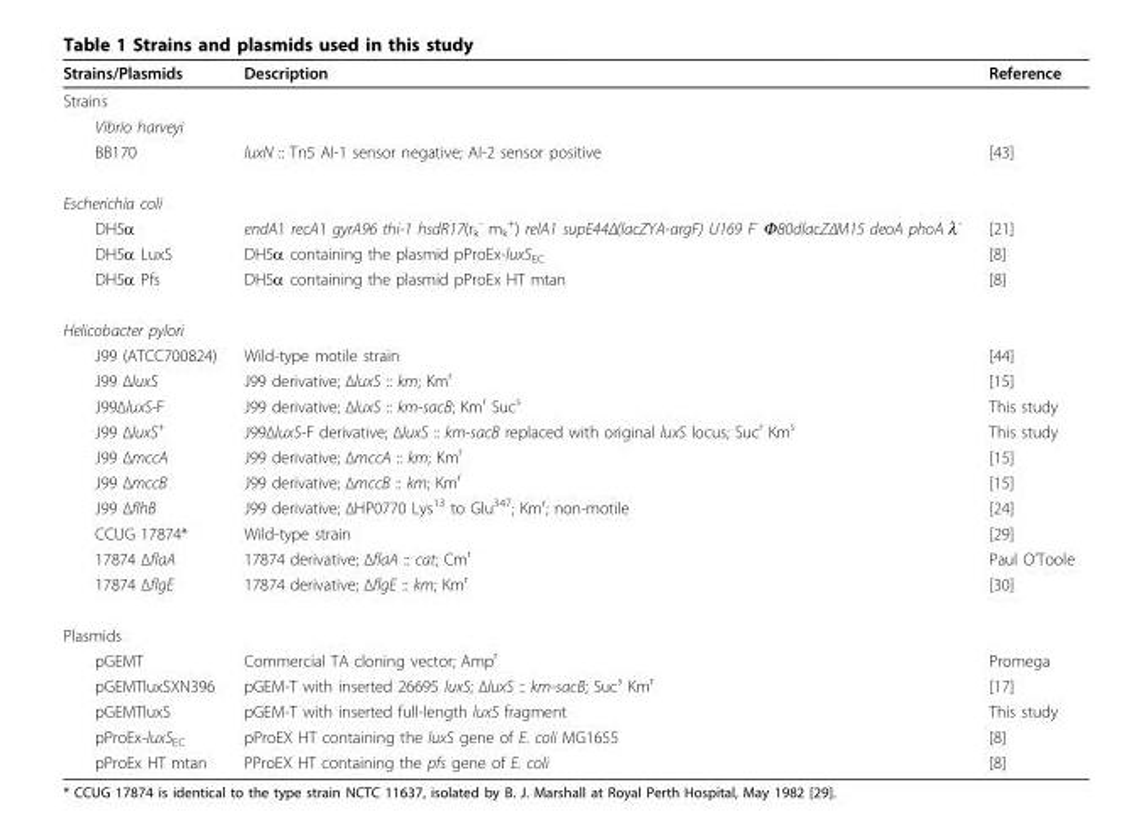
<table><thead><tr><td>Strains/Plasmids</td><td>Description</td><td>Reference</td></tr></thead><tbody><tr><td colspan="3">Strains</td></tr><tr><td colspan="3">Vibrio harveyi</td></tr><tr><td>BB170</td><td>luxN :: Tn5 AI-1 sensor negative; AI-2 sensor positive</td><td>[43]</td></tr><tr><td colspan="3">Escherichia coli</td></tr><tr><td>DH5α</td><td>endA1 recA1 gyrA96 thi-1 hsdR17(r<sub>k</sub> <sup>-</sup> m<sub>k</sub> <sup>+</sup>) relA1 supE44Δ(lacZYA-argF) U169 F<sup>-</sup> Φ80dlacZΔM15 deoA phoA λ<sup>-</sup></td><td>[21]</td></tr><tr><td>DH5α LuxS</td><td>DH5α containing the plasmid pProEx-luxS<sub>EC</sub></td><td>[8]</td></tr><tr><td>DH5α Pfs</td><td>DH5α containing the plasmid pProEx HT mtan</td><td>[8]</td></tr><tr><td colspan="3">Helicobacter pylori</td></tr><tr><td>J99 (ATCC700824)</td><td>Wild-type motile strain</td><td>[44]</td></tr><tr><td>J99 ΔluxS</td><td>J99 derivative; ΔluxS :: km; Km<sup>r</sup></td><td>[15]</td></tr><tr><td>J99ΔluxS-F</td><td>J99 derivative; ΔluxS :: km-sacB; Km<sup>r</sup> Suc<sup>s</sup></td><td>This study</td></tr><tr><td>J99 ΔluxS<sup>+</sup></td><td>J99ΔluxS-F derivative; ΔluxS :: km-sacB replaced with original luxS locus; Suc<sup>r</sup> Km<sup>s</sup></td><td>This study</td></tr><tr><td>J99 ΔmccA</td><td>J99 derivative; ΔmccA :: km; Km<sup>r</sup></td><td>[15]</td></tr><tr><td>J99 ΔmccB</td><td>J99 derivative; ΔmccB :: km; Km<sup>r</sup></td><td>[15]</td></tr><tr><td>J99 ΔflhB</td><td>J99 derivative; ΔHP0770 Lys<sup>13</sup> to Glu<sup>347</sup>; Km<sup>r</sup>; non-motile</td><td>[24]</td></tr><tr><td>CCUG 17874*</td><td>Wild-type strain</td><td>[29]</td></tr><tr><td>17874 ΔflaA</td><td>17874 derivative; ΔflaA :: cat; Cm<sup>r</sup></td><td>Paul O’Toole</td></tr><tr><td>17874 ΔflgE</td><td>17874 derivative; ΔflgE :: km; Km<sup>r</sup></td><td>[30]</td></tr><tr><td colspan="3">Plasmids</td></tr><tr><td>pGEMT</td><td>Commercial TA cloning vector; Amp<sup>r</sup></td><td>Promega</td></tr><tr><td>pGEMTluxSXN396</td><td>pGEM-T with inserted 26695 luxS; ΔluxS :: km-sacB; Suc<sup>s</sup> Km<sup>r</sup></td><td>[17]</td></tr><tr><td>pGEMTluxS</td><td>pGEM-T with inserted full-length luxS fragment</td><td>This study</td></tr><tr><td>pProEx-luxS<sub>EC</sub></td><td>pProEX HT containing the luxS gene of E. coli MG1655</td><td>[8]</td></tr><tr><td>pProEx HT mtan</td><td>PProEX HT containing the pfs gene of E. coli</td><td>[8]</td></tr></tbody></table>